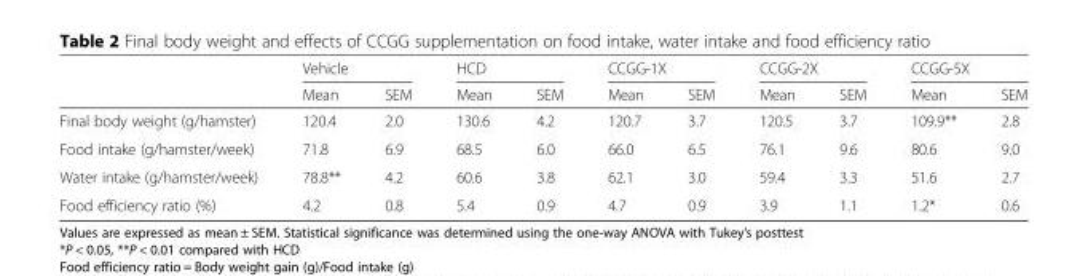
<table><thead><tr><td rowspan="2"></td><td colspan="2">Vehicle</td><td colspan="2">HCD</td><td colspan="2">CCGG-1X</td><td colspan="2">CCGG-2X</td><td colspan="2">CCGG-5X</td></tr><tr><td>Mean</td><td>SEM</td><td>Mean</td><td>SEM</td><td>Mean</td><td>SEM</td><td>Mean</td><td>SEM</td><td>Mean</td><td>SEM</td></tr></thead><tbody><tr><td>Final body weight (g/hamster)</td><td>120.4</td><td>2.0</td><td>130.6</td><td>4.2</td><td>120.7</td><td>3.7</td><td>120.5</td><td>3.7</td><td>109.9**</td><td>2.8</td></tr><tr><td>Food intake (g/hamster/week)</td><td>71.8</td><td>6.9</td><td>68.5</td><td>6.0</td><td>66.0</td><td>6.5</td><td>76.1</td><td>9.6</td><td>80.6</td><td>9.0</td></tr><tr><td>Water intake (g/hamster/week)</td><td>78.8**</td><td>4.2</td><td>60.6</td><td>3.8</td><td>62.1</td><td>3.0</td><td>59.4</td><td>3.3</td><td>51.6</td><td>2.7</td></tr><tr><td>Food efficiency ratio (%)</td><td>4.2</td><td>0.8</td><td>5.4</td><td>0.9</td><td>4.7</td><td>0.9</td><td>3.9</td><td>1.1</td><td>1.2*</td><td>0.6</td></tr></tbody></table>